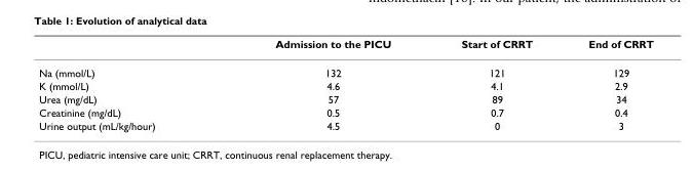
<table><thead><tr><td></td><td>Admission to the PICU</td><td>Start of CRRT</td><td>End of CRRT</td></tr></thead><tbody><tr><td>Na (mmol/L)</td><td>132</td><td>121</td><td>129</td></tr><tr><td>K (mmol/L)</td><td>4.6</td><td>4.1</td><td>2.9</td></tr><tr><td>Urea (mg/dL)</td><td>57</td><td>89</td><td>34</td></tr><tr><td>Creatinine (mg/dL)</td><td>0.5</td><td>0.7</td><td>0.4</td></tr><tr><td>Urine output (mL/kg/hour)</td><td>4.5</td><td>0</td><td>3</td></tr></tbody></table>